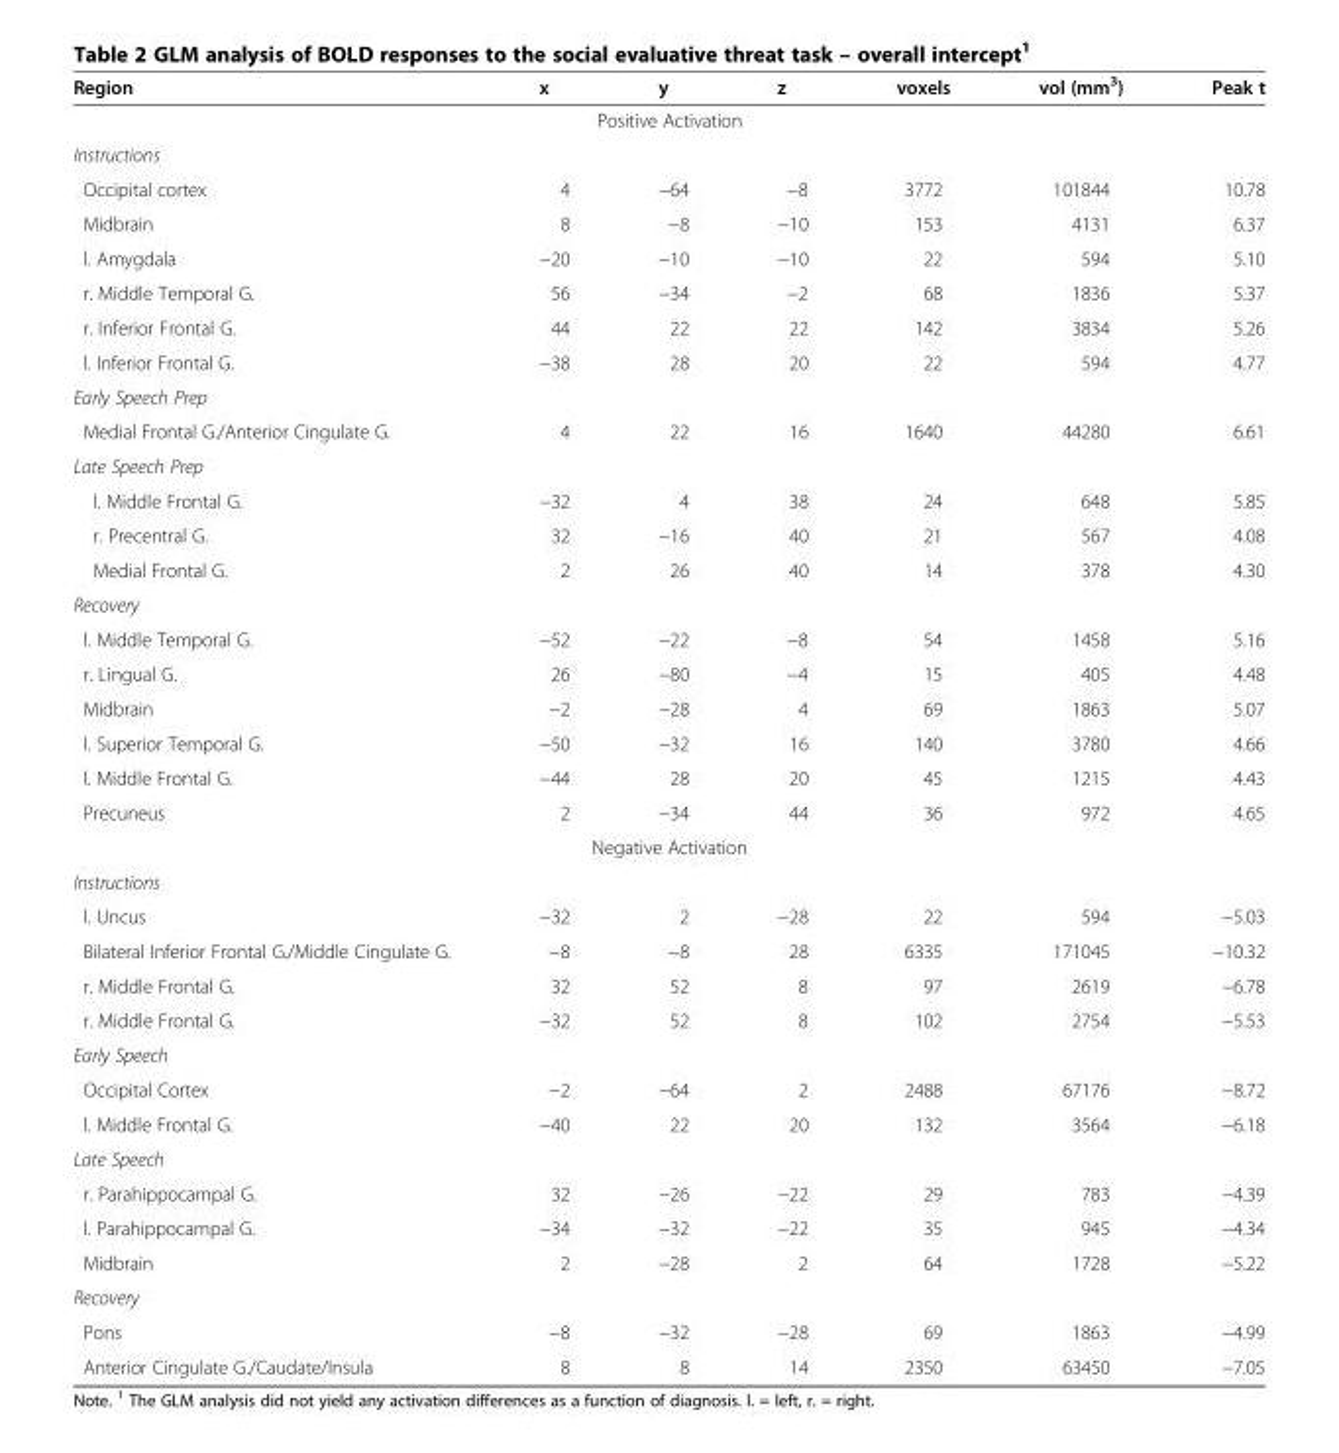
<table><thead><tr><td>Region</td><td>x</td><td>y</td><td>z</td><td>voxels</td><td>vol (mm<sup>3</sup>)</td><td>Peak t</td></tr></thead><tbody><tr><td colspan="7">Positive Activation</td></tr><tr><td colspan="7">Instructions</td></tr><tr><td>Occipital cortex</td><td>4</td><td>−64</td><td>−8</td><td>3772</td><td>101844</td><td>10.78</td></tr><tr><td>Midbrain</td><td>8</td><td>−8</td><td>−10</td><td>153</td><td>4131</td><td>6.37</td></tr><tr><td>l. Amygdala</td><td>−20</td><td>−10</td><td>−10</td><td>22</td><td>594</td><td>5.10</td></tr><tr><td>r. Middle Temporal G.</td><td>56</td><td>−34</td><td>−2</td><td>68</td><td>1836</td><td>5.37</td></tr><tr><td>r. Inferior Frontal G.</td><td>44</td><td>22</td><td>22</td><td>142</td><td>3834</td><td>5.26</td></tr><tr><td>l. Inferior Frontal G.</td><td>−38</td><td>28</td><td>20</td><td>22</td><td>594</td><td>4.77</td></tr><tr><td colspan="7">Early Speech Prep</td></tr><tr><td>Medial Frontal G./Anterior Cingulate G.</td><td>4</td><td>22</td><td>16</td><td>1640</td><td>44280</td><td>6.61</td></tr><tr><td colspan="7">Late Speech Prep</td></tr><tr><td>l. Middle Frontal G.</td><td>−32</td><td>4</td><td>38</td><td>24</td><td>648</td><td>5.85</td></tr><tr><td>r. Precentral G.</td><td>32</td><td>−16</td><td>40</td><td>21</td><td>567</td><td>4.08</td></tr><tr><td>Medial Frontal G.</td><td>2</td><td>26</td><td>40</td><td>14</td><td>378</td><td>4.30</td></tr><tr><td colspan="7">Recovery</td></tr><tr><td>l. Middle Temporal G.</td><td>−52</td><td>−22</td><td>−8</td><td>54</td><td>1458</td><td>5.16</td></tr><tr><td>r. Lingual G.</td><td>26</td><td>−80</td><td>−4</td><td>15</td><td>405</td><td>4.48</td></tr><tr><td>Midbrain</td><td>−2</td><td>−28</td><td>4</td><td>69</td><td>1863</td><td>5.07</td></tr><tr><td>l. Superior Temporal G.</td><td>−50</td><td>−32</td><td>16</td><td>140</td><td>3780</td><td>4.66</td></tr><tr><td>l. Middle Frontal G.</td><td>−44</td><td>28</td><td>20</td><td>45</td><td>1215</td><td>4.43</td></tr><tr><td>Precuneus</td><td>2</td><td>−34</td><td>44</td><td>36</td><td>972</td><td>4.65</td></tr><tr><td colspan="7">Negative Activation</td></tr><tr><td colspan="7">Instructions</td></tr><tr><td>l. Uncus</td><td>−32</td><td>2</td><td>−28</td><td>22</td><td>594</td><td>−5.03</td></tr><tr><td>Bilateral Inferior Frontal G./Middle Cingulate G.</td><td>−8</td><td>−8</td><td>28</td><td>6335</td><td>171045</td><td>−10.32</td></tr><tr><td>r. Middle Frontal G.</td><td>32</td><td>52</td><td>8</td><td>97</td><td>2619</td><td>−6.78</td></tr><tr><td>r. Middle Frontal G.</td><td>−32</td><td>52</td><td>8</td><td>102</td><td>2754</td><td>−5.53</td></tr><tr><td colspan="7">Early Speech</td></tr><tr><td>Occipital Cortex</td><td>−2</td><td>−64</td><td>2</td><td>2488</td><td>67176</td><td>−8.72</td></tr><tr><td>l. Middle Frontal G.</td><td>−40</td><td>22</td><td>20</td><td>132</td><td>3564</td><td>−6.18</td></tr><tr><td colspan="7">Late Speech</td></tr><tr><td>r. Parahippocampal G.</td><td>32</td><td>−26</td><td>−22</td><td>29</td><td>783</td><td>−4.39</td></tr><tr><td>l. Parahippocampal G.</td><td>−34</td><td>−32</td><td>−22</td><td>35</td><td>945</td><td>−4.34</td></tr><tr><td>Midbrain</td><td>2</td><td>−28</td><td>2</td><td>64</td><td>1728</td><td>−5.22</td></tr><tr><td colspan="7">Recovery</td></tr><tr><td>Pons</td><td>−8</td><td>−32</td><td>−28</td><td>69</td><td>1863</td><td>−4.99</td></tr><tr><td>Anterior Cingulate G./Caudate/Insula</td><td>8</td><td>8</td><td>14</td><td>2350</td><td>63450</td><td>−7.05</td></tr></tbody></table>